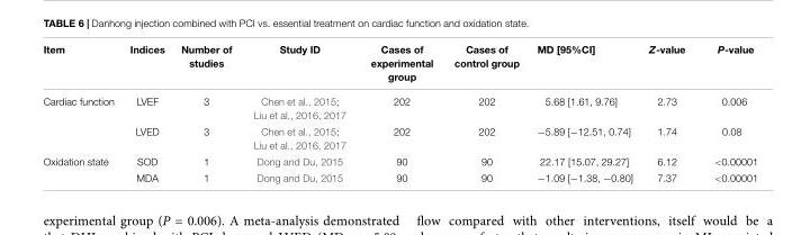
<table><thead><tr><td>Item</td><td>Indices</td><td>Number of studies</td><td>Study ID</td><td>Cases of experimental group</td><td>Cases of control group</td><td>MD [95%CI]</td><td>Z-value</td><td>P-value</td></tr></thead><tbody><tr><td rowspan="2">Cardiac function</td><td>LVEF</td><td>3</td><td>Chen et al., 2015; Liu et al., 2016, 2017</td><td>202</td><td>202</td><td>5.68 [1.61, 9.76]</td><td>2.73</td><td>0.006</td></tr><tr><td>LVED</td><td>3</td><td>Chen et al., 2015; Liu et al., 2016, 2017</td><td>202</td><td>202</td><td>−5.89 [−12.51, 0.74]</td><td>1.74</td><td>0.08</td></tr><tr><td rowspan="2">Oxidation state</td><td>SOD</td><td>1</td><td>Dong and Du, 2015</td><td>90</td><td>90</td><td>22.17 [15.07, 29.27]</td><td>6.12</td><td>&lt;0.00001</td></tr><tr><td>MDA</td><td>1</td><td>Dong and Du, 2015</td><td>90</td><td>90</td><td>−1.09 [−1.38, −0.80]</td><td>7.37</td><td>&lt;0.00001</td></tr></tbody></table>